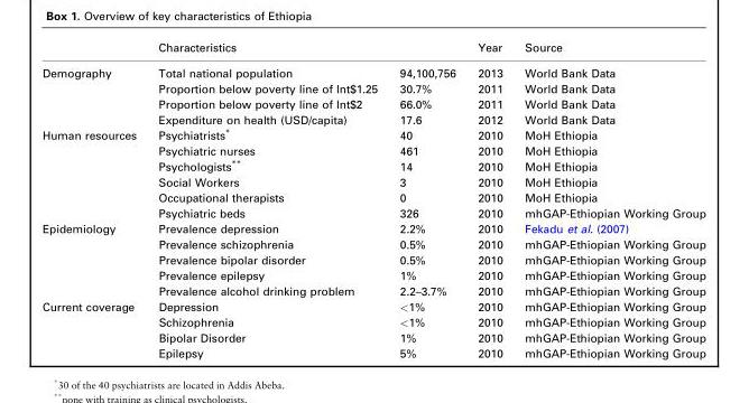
<table><thead><tr><td></td><td>Characteristics</td><td></td><td>Year</td><td>Source</td></tr></thead><tbody><tr><td rowspan="4">Demography</td><td>Total national population</td><td>94,100,756</td><td>2013</td><td>World Bank Data</td></tr><tr><td>Proportion below poverty line of Int$1.25</td><td>30.7%</td><td>2011</td><td>World Bank Data</td></tr><tr><td>Proportion below poverty line of Int$2</td><td>66.0%</td><td>2011</td><td>World Bank Data</td></tr><tr><td>Expenditure on health (USD/capita)</td><td>17.6</td><td>2012</td><td>World Bank Data</td></tr><tr><td rowspan="6">Human resources</td><td>Psychiatrists*</td><td>40</td><td>2010</td><td>MoH Ethiopia</td></tr><tr><td>Psychiatric nurses</td><td>461</td><td>2010</td><td>MoH Ethiopia</td></tr><tr><td>Psychologists**</td><td>14</td><td>2010</td><td>MoH Ethiopia</td></tr><tr><td>Social Workers</td><td>3</td><td>2010</td><td>MoH Ethiopia</td></tr><tr><td>Occupational therapists</td><td>0</td><td>2010</td><td>MoH Ethiopia</td></tr><tr><td>Psychiatric beds</td><td>326</td><td>2010</td><td>mhGAP-Ethiopian Working Group</td></tr><tr><td rowspan="5">Epidemiology</td><td>Prevalence depression</td><td>2.2%</td><td>2010</td><td>Fekadu et al. (2007)</td></tr><tr><td>Prevalence schizophrenia</td><td>0.5%</td><td>2010</td><td>mhGAP-Ethiopian Working Group</td></tr><tr><td>Prevalence bipolar disorder</td><td>0.5%</td><td>2010</td><td>mhGAP-Ethiopian Working Group</td></tr><tr><td>Prevalence epilepsy</td><td>1%</td><td>2010</td><td>mhGAP-Ethiopian Working Group</td></tr><tr><td>Prevalence alcohol drinking problem</td><td>2.2–3.7%</td><td>2010</td><td>mhGAP-Ethiopian Working Group</td></tr><tr><td rowspan="4">Current coverage</td><td>Depression</td><td>&lt;1%</td><td>2010</td><td>mhGAP-Ethiopian Working Group</td></tr><tr><td>Schizophrenia</td><td>&lt;1%</td><td>2010</td><td>mhGAP-Ethiopian Working Group</td></tr><tr><td>Bipolar Disorder</td><td>1%</td><td>2010</td><td>mhGAP-Ethiopian Working Group</td></tr><tr><td>Epilepsy</td><td>5%</td><td>2010</td><td>mhGAP-Ethiopian Working Group</td></tr></tbody></table>